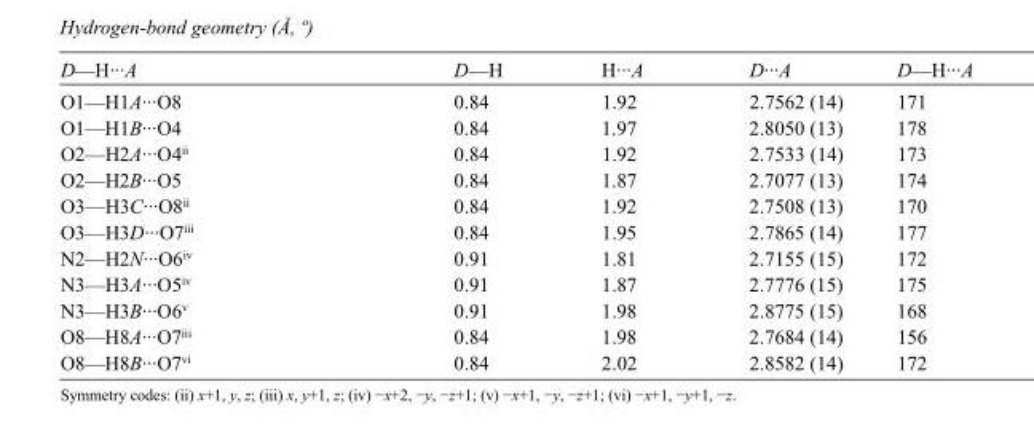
<table><tbody><tr><td>D—H···A</td><td>D—H</td><td>H···A</td><td>D···A</td><td>D—H···A</td></tr><tr><td>O1—H1A···O8</td><td>0.84</td><td>1.92</td><td>2.7562 (14)</td><td>171</td></tr><tr><td>O1—H1B···O4</td><td>0.84</td><td>1.97</td><td>2.8050 (13)</td><td>178</td></tr><tr><td>O2—H2A···O4<sup>ii</sup></td><td>0.84</td><td>1.92</td><td>2.7533 (14)</td><td>173</td></tr><tr><td>O2—H2B···O5</td><td>0.84</td><td>1.87</td><td>2.7077 (13)</td><td>174</td></tr><tr><td>O3—H3C···O8<sup>ii</sup></td><td>0.84</td><td>1.92</td><td>2.7508 (13)</td><td>170</td></tr><tr><td>O3—H3D···O7<sup>iii</sup></td><td>0.84</td><td>1.95</td><td>2.7865 (14)</td><td>177</td></tr><tr><td>N2—H2N···O6<sup>iv</sup></td><td>0.91</td><td>1.81</td><td>2.7155 (15)</td><td>172</td></tr><tr><td>N3—H3A···O5<sup>iv</sup></td><td>0.91</td><td>1.87</td><td>2.7776 (15)</td><td>175</td></tr><tr><td>N3—H3B···O6<sup>v</sup></td><td>0.91</td><td>1.98</td><td>2.8775 (15)</td><td>168</td></tr><tr><td>O8—H8A···O7<sup>iii</sup></td><td>0.84</td><td>1.98</td><td>2.7684 (14)</td><td>156</td></tr><tr><td>O8—H8B···O7<sup>vi</sup></td><td>0.84</td><td>2.02</td><td>2.8582 (14)</td><td>172</td></tr></tbody></table>